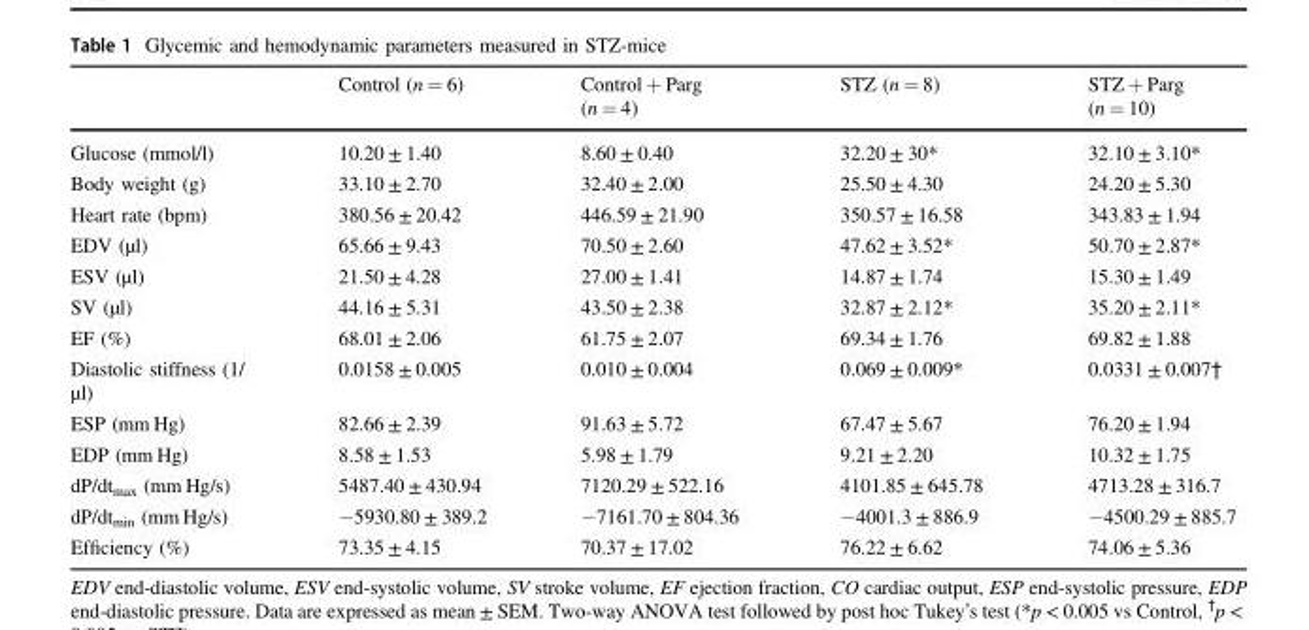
<table><thead><tr><td></td><td>Control (n = 6)</td><td>Control + Parg (n = 4)</td><td>STZ (n = 8)</td><td>STZ + Parg (n = 10)</td></tr></thead><tbody><tr><td>Glucose (mmol/l)</td><td>10.20 ± 1.40</td><td>8.60 ± 0.40</td><td>32.20 ± 30*</td><td>32.10 ± 3.10*</td></tr><tr><td>Body weight (g)</td><td>33.10 ± 2.70</td><td>32.40 ± 2.00</td><td>25.50 ± 4.30</td><td>24.20 ± 5.30</td></tr><tr><td>Heart rate (bpm)</td><td>380.56 ± 20.42</td><td>446.59 ± 21.90</td><td>350.57 ± 16.58</td><td>343.83 ± 1.94</td></tr><tr><td>EDV (µl)</td><td>65.66 ± 9.43</td><td>70.50 ± 2.60</td><td>47.62 ± 3.52*</td><td>50.70 ± 2.87*</td></tr><tr><td>ESV (µl)</td><td>21.50 ± 4.28</td><td>27.00 ± 1.41</td><td>14.87 ± 1.74</td><td>15.30 ± 1.49</td></tr><tr><td>SV (µl)</td><td>44.16 ± 5.31</td><td>43.50 ± 2.38</td><td>32.87 ± 2.12*</td><td>35.20 ± 2.11*</td></tr><tr><td>EF (%)</td><td>68.01 ± 2.06</td><td>61.75 ± 2.07</td><td>69.34 ± 1.76</td><td>69.82 ± 1.88</td></tr><tr><td>Diastolic stiffness (1/ µl)</td><td>0.0158 ± 0.005</td><td>0.010 ± 0.004</td><td>0.069 ± 0.009*</td><td>0.0331 ± 0.007†</td></tr><tr><td>ESP (mm Hg)</td><td>82.66 ± 2.39</td><td>91.63 ± 5.72</td><td>67.47 ± 5.67</td><td>76.20 ± 1.94</td></tr><tr><td>EDP (mm Hg)</td><td>8.58 ± 1.53</td><td>5.98 ± 1.79</td><td>9.21 ± 2.20</td><td>10.32 ± 1.75</td></tr><tr><td>dP/dt<sub>max</sub> (mm Hg/s)</td><td>5487.40 ± 430.94</td><td>7120.29 ± 522.16</td><td>4101.85 ± 645.78</td><td>4713.28 ± 316.7</td></tr><tr><td>dP/dt<sub>min</sub> (mm Hg/s)</td><td>−5930.80 ± 389.2</td><td>−7161.70 ± 804.36</td><td>−4001.3 ± 886.9</td><td>−4500.29 ± 885.7</td></tr><tr><td>Efficiency (%)</td><td>73.35 ± 4.15</td><td>70.37 ± 17.02</td><td>76.22 ± 6.62</td><td>74.06 ± 5.36</td></tr></tbody></table>